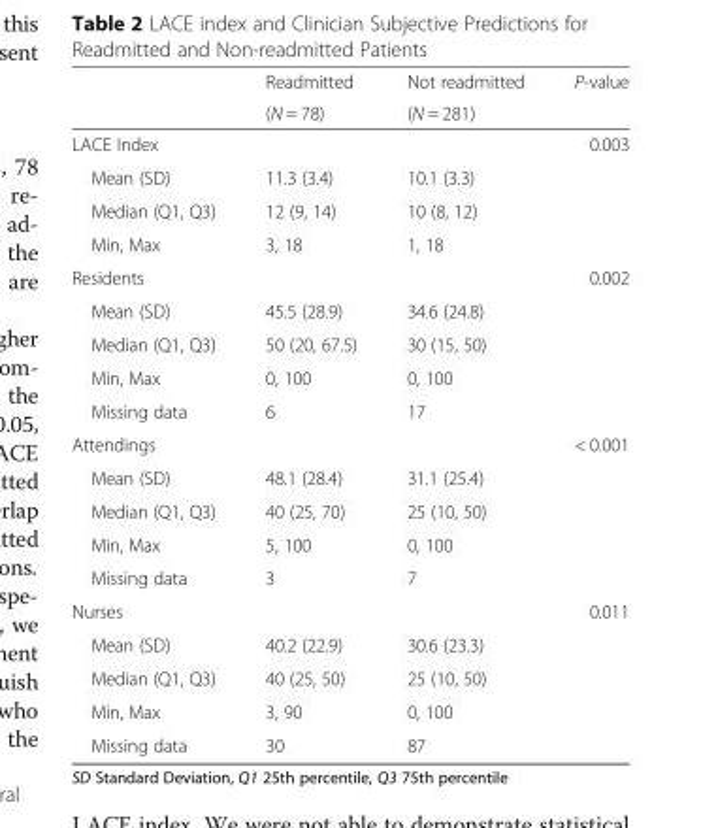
<table><thead><tr><td rowspan="2"></td><td rowspan="2">Readmitted (N = 78)</td><td rowspan="2">Not readmitted (N = 281)</td><td rowspan="2">P-value</td></tr><tr></tr></thead><tbody><tr><td colspan="3">LACE Index</td><td>0.003</td></tr><tr><td>Mean (SD)</td><td>11.3 (3.4)</td><td>10.1 (3.3)</td><td></td></tr><tr><td>Median (Q1, Q3)</td><td>12 (9, 14)</td><td>10 (8, 12)</td><td></td></tr><tr><td>Min, Max</td><td>3, 18</td><td>1, 18</td><td></td></tr><tr><td colspan="3">Residents</td><td>0.002</td></tr><tr><td>Mean (SD)</td><td>45.5 (28.9)</td><td>34.6 (24.8)</td><td></td></tr><tr><td>Median (Q1, Q3)</td><td>50 (20, 67.5)</td><td>30 (15, 50)</td><td></td></tr><tr><td>Min, Max</td><td>0, 100</td><td>0, 100</td><td></td></tr><tr><td>Missing data</td><td>6</td><td>17</td><td></td></tr><tr><td colspan="3">Attendings</td><td>&lt; 0.001</td></tr><tr><td>Mean (SD)</td><td>48.1 (28.4)</td><td>31.1 (25.4)</td><td></td></tr><tr><td>Median (Q1, Q3)</td><td>40 (25, 70)</td><td>25 (10, 50)</td><td></td></tr><tr><td>Min, Max</td><td>5, 100</td><td>0, 100</td><td></td></tr><tr><td>Missing data</td><td>3</td><td>7</td><td></td></tr><tr><td colspan="3">Nurses</td><td>0.011</td></tr><tr><td>Mean (SD)</td><td>40.2 (22.9)</td><td>30.6 (23.3)</td><td></td></tr><tr><td>Median (Q1, Q3)</td><td>40 (25, 50)</td><td>25 (10, 50)</td><td></td></tr><tr><td>Min, Max</td><td>3, 90</td><td>0, 100</td><td></td></tr><tr><td>Missing data</td><td>30</td><td>87</td><td></td></tr></tbody></table>